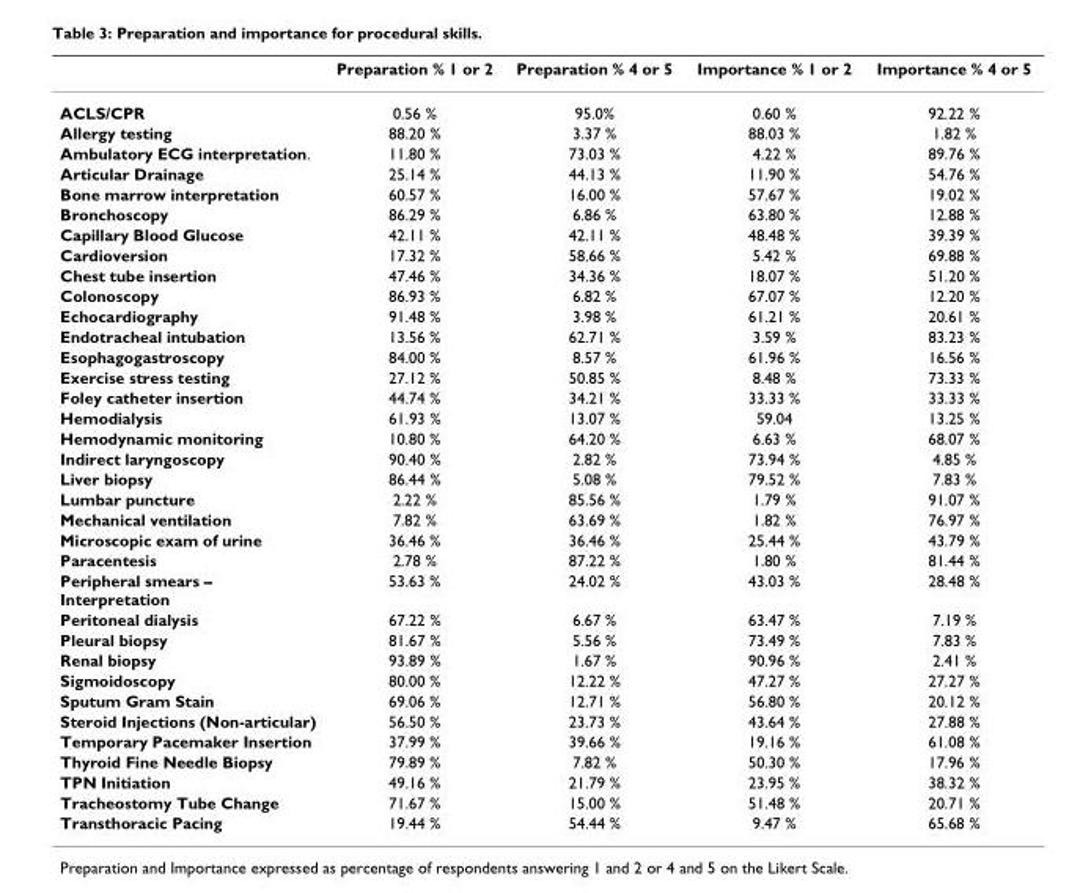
<table><thead><tr><td></td><td>Preparation % 1 or 2</td><td>Preparation % 4 or 5</td><td>Importance % 1 or 2</td><td>Importance % 4 or 5</td></tr></thead><tbody><tr><td>ACLS/CPR</td><td>0.56 %</td><td>95.0%</td><td>0.60 %</td><td>92.22 %</td></tr><tr><td>Allergy testing</td><td>88.20 %</td><td>3.37 %</td><td>88.03 %</td><td>1.82 %</td></tr><tr><td>Ambulatory ECG interpretation.</td><td>11.80 %</td><td>73.03 %</td><td>4.22 %</td><td>89.76 %</td></tr><tr><td>Articular Drainage</td><td>25.14 %</td><td>44.13 %</td><td>11.90 %</td><td>54.76 %</td></tr><tr><td>Bone marrow interpretation</td><td>60.57 %</td><td>16.00 %</td><td>57.67 %</td><td>19.02 %</td></tr><tr><td>Bronchoscopy</td><td>86.29 %</td><td>6.86 %</td><td>63.80 %</td><td>12.88 %</td></tr><tr><td>Capillary Blood Glucose</td><td>42.11 %</td><td>42.11 %</td><td>48.48 %</td><td>39.39 %</td></tr><tr><td>Cardioversion</td><td>17.32 %</td><td>58.66 %</td><td>5.42 %</td><td>69.88 %</td></tr><tr><td>Chest tube insertion</td><td>47.46 %</td><td>34.36 %</td><td>18.07 %</td><td>51.20 %</td></tr><tr><td>Colonoscopy</td><td>86.93 %</td><td>6.82 %</td><td>67.07 %</td><td>12.20 %</td></tr><tr><td>Echocardiography</td><td>91.48 %</td><td>3.98 %</td><td>61.21 %</td><td>20.61 %</td></tr><tr><td>Endotracheal intubation</td><td>13.56 %</td><td>62.71 %</td><td>3.59 %</td><td>83.23 %</td></tr><tr><td>Esophagogastroscopy</td><td>84.00 %</td><td>8.57 %</td><td>61.96 %</td><td>16.56 %</td></tr><tr><td>Exercise stress testing</td><td>27.12 %</td><td>50.85 %</td><td>8.48 %</td><td>73.33 %</td></tr><tr><td>Foley catheter insertion</td><td>44.74 %</td><td>34.21 %</td><td>33.33 %</td><td>33.33 %</td></tr><tr><td>Hemodialysis</td><td>61.93 %</td><td>13.07 %</td><td>59.04</td><td>13.25 %</td></tr><tr><td>Hemodynamic monitoring</td><td>10.80 %</td><td>64.20 %</td><td>6.63 %</td><td>68.07 %</td></tr><tr><td>Indirect laryngoscopy</td><td>90.40 %</td><td>2.82 %</td><td>73.94 %</td><td>4.85 %</td></tr><tr><td>Liver biopsy</td><td>86.44 %</td><td>5.08 %</td><td>79.52 %</td><td>7.83 %</td></tr><tr><td>Lumbar puncture</td><td>2.22 %</td><td>85.56 %</td><td>1.79 %</td><td>91.07 %</td></tr><tr><td>Mechanical ventilation</td><td>7.82 %</td><td>63.69 %</td><td>1.82 %</td><td>76.97 %</td></tr><tr><td>Microscopic exam of urine</td><td>36.46 %</td><td>36.46 %</td><td>25.44 %</td><td>43.79 %</td></tr><tr><td>Paracentesis</td><td>2.78 %</td><td>87.22 %</td><td>1.80 %</td><td>81.44 %</td></tr><tr><td>Peripheral smears – Interpretation</td><td>53.63 %</td><td>24.02 %</td><td>43.03 %</td><td>28.48 %</td></tr><tr><td>Peritoneal dialysis</td><td>67.22 %</td><td>6.67 %</td><td>63.47 %</td><td>7.19 %</td></tr><tr><td>Pleural biopsy</td><td>81.67 %</td><td>5.56 %</td><td>73.49 %</td><td>7.83 %</td></tr><tr><td>Renal biopsy</td><td>93.89 %</td><td>1.67 %</td><td>90.96 %</td><td>2.41 %</td></tr><tr><td>Sigmoidoscopy</td><td>80.00 %</td><td>12.22 %</td><td>47.27 %</td><td>27.27 %</td></tr><tr><td>Sputum Gram Stain</td><td>69.06 %</td><td>12.71 %</td><td>56.80 %</td><td>20.12 %</td></tr><tr><td>Steroid Injections (Non-articular)</td><td>56.50 %</td><td>23.73 %</td><td>43.64 %</td><td>27.88 %</td></tr><tr><td>Temporary Pacemaker Insertion</td><td>37.99 %</td><td>39.66 %</td><td>19.16 %</td><td>61.08 %</td></tr><tr><td>Thyroid Fine Needle Biopsy</td><td>79.89 %</td><td>7.82 %</td><td>50.30 %</td><td>17.96 %</td></tr><tr><td>TPN Initiation</td><td>49.16 %</td><td>21.79 %</td><td>23.95 %</td><td>38.32 %</td></tr><tr><td>Tracheostomy Tube Change</td><td>71.67 %</td><td>15.00 %</td><td>51.48 %</td><td>20.71 %</td></tr><tr><td>Transthoracic Pacing</td><td>19.44 %</td><td>54.44 %</td><td>9.47 %</td><td>65.68 %</td></tr></tbody></table>